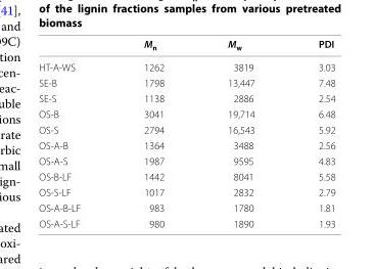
<table><thead><tr><td></td><td>M<sub>n</sub></td><td>M<sub>w</sub></td><td>PDI</td></tr></thead><tbody><tr><td>HT-A-WS</td><td>1262</td><td>3819</td><td>3.03</td></tr><tr><td>SE-B</td><td>1798</td><td>13,447</td><td>7.48</td></tr><tr><td>SE-S</td><td>1138</td><td>2886</td><td>2.54</td></tr><tr><td>OS-B</td><td>3041</td><td>19,714</td><td>6.48</td></tr><tr><td>OS-S</td><td>2794</td><td>16,543</td><td>5.92</td></tr><tr><td>OS-A-B</td><td>1364</td><td>3488</td><td>2.56</td></tr><tr><td>OS-A-S</td><td>1987</td><td>9595</td><td>4.83</td></tr><tr><td>OS-B-LF</td><td>1442</td><td>8041</td><td>5.58</td></tr><tr><td>OS-S-LF</td><td>1017</td><td>2832</td><td>2.79</td></tr><tr><td>OS-A-B-LF</td><td>983</td><td>1780</td><td>1.81</td></tr><tr><td>OS-A-S-LF</td><td>980</td><td>1890</td><td>1.93</td></tr></tbody></table>